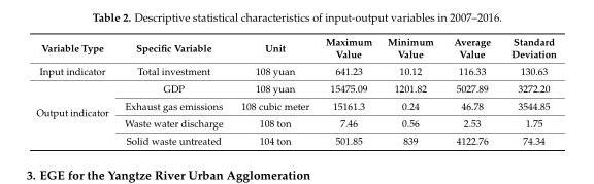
<table><thead><tr><td>Variable Type</td><td>Specific Variable</td><td>Unit</td><td>Maximum Value</td><td>Minimum Value</td><td>Average Value</td><td>Standard Deviation</td></tr></thead><tbody><tr><td>Input indicator</td><td>Total investment</td><td>108 yuan</td><td>641.23</td><td>10.12</td><td>116.33</td><td>130.63</td></tr><tr><td rowspan="4">Output indicator</td><td>GDP</td><td>108 yuan</td><td>15475.09</td><td>1201.82</td><td>5027.89</td><td>3272.20</td></tr><tr><td>Exhaust gas emissions</td><td>108 cubic meter</td><td>15161.3</td><td>0.24</td><td>46.78</td><td>3544.85</td></tr><tr><td>Waste water discharge</td><td>108 ton</td><td>7.46</td><td>0.56</td><td>2.53</td><td>1.75</td></tr><tr><td>Solid waste untreated</td><td>104 ton</td><td>501.85</td><td>839</td><td>4122.76</td><td>74.34</td></tr></tbody></table>